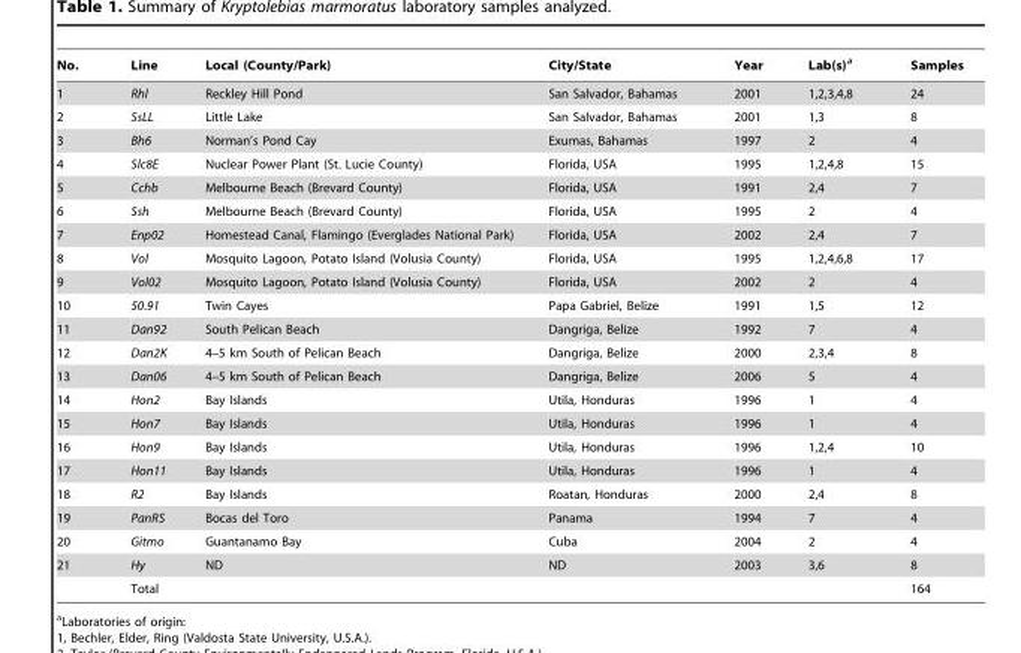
<table><thead><tr><td>No.</td><td>Line</td><td>Local (County/Park)</td><td>City/State</td><td>Year</td><td>Lab(s)<sup>a</sup></td><td>Samples</td></tr></thead><tbody><tr><td>1</td><td>Rhl</td><td>Reckley Hill Pond</td><td>San Salvador, Bahamas</td><td>2001</td><td>1,2,3,4,8</td><td>24</td></tr><tr><td>2</td><td>SsLL</td><td>Little Lake</td><td>San Salvador, Bahamas</td><td>2001</td><td>1,3</td><td>8</td></tr><tr><td>3</td><td>Bh6</td><td>Norman’s Pond Cay</td><td>Exumas, Bahamas</td><td>1997</td><td>2</td><td>4</td></tr><tr><td>4</td><td>Slc8E</td><td>Nuclear Power Plant (St. Lucie County)</td><td>Florida, USA</td><td>1995</td><td>1,2,4,8</td><td>15</td></tr><tr><td>5</td><td>Cchb</td><td>Melbourne Beach (Brevard County)</td><td>Florida, USA</td><td>1991</td><td>2,4</td><td>7</td></tr><tr><td>6</td><td>Ssh</td><td>Melbourne Beach (Brevard County)</td><td>Florida, USA</td><td>1995</td><td>2</td><td>4</td></tr><tr><td>7</td><td>Enp02</td><td>Homestead Canal, Flamingo (Everglades National Park)</td><td>Florida, USA</td><td>2002</td><td>2,4</td><td>7</td></tr><tr><td>8</td><td>Vol</td><td>Mosquito Lagoon, Potato Island (Volusia County)</td><td>Florida, USA</td><td>1995</td><td>1,2,4,6,8</td><td>17</td></tr><tr><td>9</td><td>Vol02</td><td>Mosquito Lagoon, Potato Island (Volusia County)</td><td>Florida, USA</td><td>2002</td><td>2</td><td>4</td></tr><tr><td>10</td><td>50.91</td><td>Twin Cayes</td><td>Papa Gabriel, Belize</td><td>1991</td><td>1,5</td><td>12</td></tr><tr><td>11</td><td>Dan92</td><td>South Pelican Beach</td><td>Dangriga, Belize</td><td>1992</td><td>7</td><td>4</td></tr><tr><td>12</td><td>Dan2K</td><td>4–5 km South of Pelican Beach</td><td>Dangriga, Belize</td><td>2000</td><td>2,3,4</td><td>8</td></tr><tr><td>13</td><td>Dan06</td><td>4–5 km South of Pelican Beach</td><td>Dangriga, Belize</td><td>2006</td><td>5</td><td>4</td></tr><tr><td>14</td><td>Hon2</td><td>Bay Islands</td><td>Utila, Honduras</td><td>1996</td><td>1</td><td>4</td></tr><tr><td>15</td><td>Hon7</td><td>Bay Islands</td><td>Utila, Honduras</td><td>1996</td><td>1</td><td>4</td></tr><tr><td>16</td><td>Hon9</td><td>Bay Islands</td><td>Utila, Honduras</td><td>1996</td><td>1,2,4</td><td>10</td></tr><tr><td>17</td><td>Hon11</td><td>Bay Islands</td><td>Utila, Honduras</td><td>1996</td><td>1</td><td>4</td></tr><tr><td>18</td><td>R2</td><td>Bay Islands</td><td>Roatan, Honduras</td><td>2000</td><td>2,4</td><td>8</td></tr><tr><td>19</td><td>PanRS</td><td>Bocas del Toro</td><td>Panama</td><td>1994</td><td>7</td><td>4</td></tr><tr><td>20</td><td>Gitmo</td><td>Guantanamo Bay</td><td>Cuba</td><td>2004</td><td>2</td><td>4</td></tr><tr><td rowspan="2">21</td><td>Hy</td><td>ND</td><td>ND</td><td>2003</td><td>3,6</td><td>8</td></tr><tr><td>Total</td><td></td><td></td><td></td><td></td><td>164</td></tr></tbody></table>